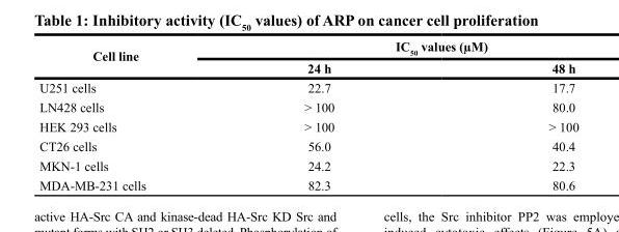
<table><thead><tr><td rowspan="2">Cell line</td><td colspan="2">IC<sub>50</sub> values (µM)</td></tr><tr><td>24 h</td><td>48 h</td></tr></thead><tbody><tr><td>U251 cells</td><td>22.7</td><td>17.7</td></tr><tr><td>LN428 cells</td><td>&gt; 100</td><td>80.0</td></tr><tr><td>HEK 293 cells</td><td>&gt; 100</td><td>&gt; 100</td></tr><tr><td>CT26 cells</td><td>56.0</td><td>40.4</td></tr><tr><td>MKN-1 cells</td><td>24.2</td><td>22.3</td></tr><tr><td>MDA-MB-231 cells</td><td>82.3</td><td>80.6</td></tr></tbody></table>